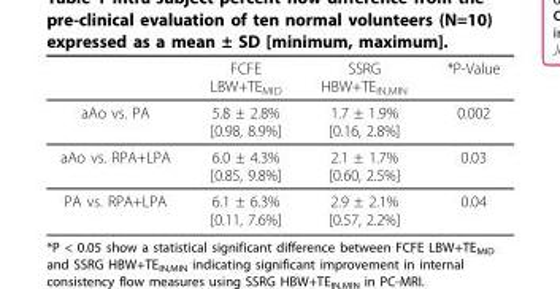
<table><thead><tr><td></td><td>FCFE LBW+TE<sub>MID</sub></td><td>SSRG HBW+TE<sub>IN,MIN</sub></td><td>*P-Value</td></tr></thead><tbody><tr><td>aAo vs. PA</td><td>5.8 ± 2.8% [0.98, 8.9%]</td><td>1.7 ± 1.9% [0.16, 2.8%]</td><td>0.002</td></tr><tr><td>aAo vs. RPA+LPA</td><td>6.0 ± 4.3% [0.85, 9.8%]</td><td>2.1 ± 1.7% [0.60, 2.5%]</td><td>0.03</td></tr><tr><td>PA vs. RPA+LPA</td><td>6.1 ± 6.3% [0.11, 7.6%]</td><td>2.9 ± 2.1% [0.57, 2.2%]</td><td>0.04</td></tr></tbody></table>